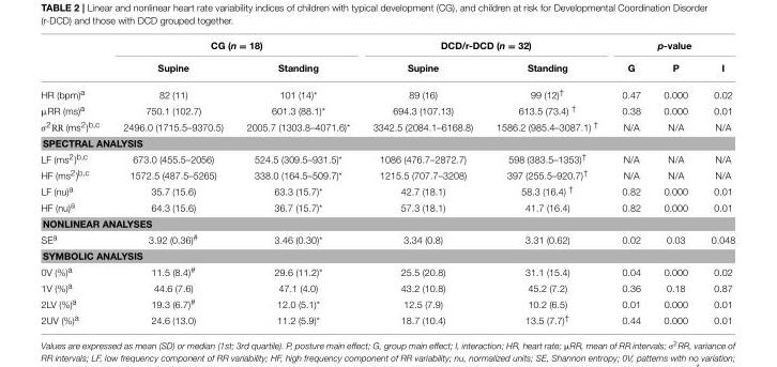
<table><thead><tr><td rowspan="2"></td><td colspan="2">CG (n = 18)</td><td colspan="2">DCD/r-DCD (n = 32)</td><td colspan="3">p-value</td></tr><tr><td>Supine</td><td>Standing</td><td>Supine</td><td>Standing</td><td>G</td><td>P</td><td>I</td></tr></thead><tbody><tr><td>HR (bpm)<sup>a</sup></td><td>82 (11)</td><td>101 (14)*</td><td>89 (16)</td><td>99 (12)<sup>†</sup></td><td>0.47</td><td>0.000</td><td>0.02</td></tr><tr><td>µRR (ms)<sup>a</sup></td><td>750.1 (102.7)</td><td>601.3 (88.1)*</td><td>694.3 (107.13)</td><td>613.5 (73.4) <sup>†</sup></td><td>0.38</td><td>0.000</td><td>0.01</td></tr><tr><td>σ<sup>2</sup>RR (ms<sup>2</sup>)<sup>b,c</sup></td><td>2496.0 (1715.5–9370.5)</td><td>2005.7 (1303.8–4071.6)*</td><td>3342.5 (2084.1–6168.8)</td><td>1586.2 (985.4–3087.1) <sup>†</sup></td><td>N/A</td><td>N/A</td><td>N/A</td></tr><tr><td colspan="8">SPECTRAL ANALYSIS</td></tr><tr><td>LF (ms<sup>2</sup>)<sup>b,c</sup></td><td>673.0 (455.5–2056)</td><td>524.5 (309.5–931.5)*</td><td>1086 (476.7–2872.7)</td><td>598 (383.5–1353)<sup>†</sup></td><td>N/A</td><td>N/A</td><td>N/A</td></tr><tr><td>HF (ms<sup>2</sup>)<sup>b,c</sup></td><td>1572.5 (487.5–5265)</td><td>338.0 (164.5–509.7)*</td><td>1215.5 (707.7–3208)</td><td>397 (255.5–920.7)<sup>†</sup></td><td>N/A</td><td>N/A</td><td>N/A</td></tr><tr><td>LF (nu)<sup>a</sup></td><td>35.7 (15.6)</td><td>63.3 (15.7)*</td><td>42.7 (18.1)</td><td>58.3 (16.4) <sup>†</sup></td><td>0.82</td><td>0.000</td><td>0.01</td></tr><tr><td>HF (nu)<sup>a</sup></td><td>64.3 (15.6)</td><td>36.7 (15.7)*</td><td>57.3 (18.1)</td><td>41.7 (16.4)</td><td>0.82</td><td>0.000</td><td>0.01</td></tr><tr><td colspan="8">NONLINEAR ANALYSES</td></tr><tr><td>SE<sup>a</sup></td><td>3.92 (0.36)<sup>#</sup></td><td>3.46 (0.30)*</td><td>3.34 (0.8)</td><td>3.31 (0.62)</td><td>0.02</td><td>0.03</td><td>0.048</td></tr><tr><td colspan="8">SYMBOLIC ANALYSIS</td></tr><tr><td>0V (%)<sup>a</sup></td><td>11.5 (8.4)<sup>#</sup></td><td>29.6 (11.2)*</td><td>25.5 (20.8)</td><td>31.1 (15.4)</td><td>0.04</td><td>0.000</td><td>0.02</td></tr><tr><td>1V (%)<sup>a</sup></td><td>44.6 (7.6)</td><td>47.1 (4.0)</td><td>43.2 (10.8)</td><td>45.2 (7.2)</td><td>0.36</td><td>0.18</td><td>0.87</td></tr><tr><td>2LV (%)<sup>a</sup></td><td>19.3 (6.7)<sup>#</sup></td><td>12.0 (5.1)*</td><td>12.5 (7.9)</td><td>10.2 (6.5)</td><td>0.01</td><td>0.000</td><td>0.01</td></tr><tr><td>2UV (%)<sup>a</sup></td><td>24.6 (13.0)</td><td>11.2 (5.9)*</td><td>18.7 (10.4)</td><td>13.5 (7.7)<sup>†</sup></td><td>0.44</td><td>0.000</td><td>0.01</td></tr></tbody></table>